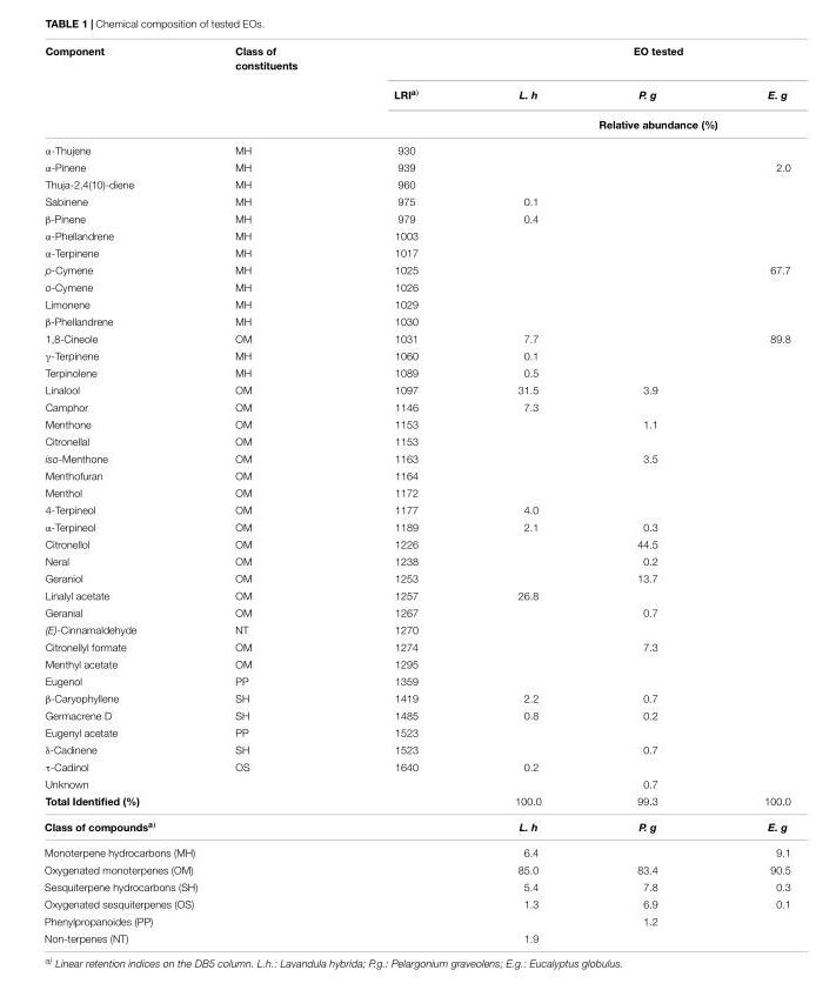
<table><thead><tr><td rowspan="3">Component</td><td rowspan="3">Class of constituents</td><td rowspan="3">LRI<sup>a)</sup></td><td colspan="3">EO tested</td></tr><tr><td>L. h</td><td>P. g</td><td>E. g</td></tr><tr><td colspan="3">Relative abundance (%)</td></tr></thead><tbody><tr><td>α-Thujene</td><td>MH</td><td>930</td><td></td><td></td><td></td></tr><tr><td>α-Pinene</td><td>MH</td><td>939</td><td></td><td></td><td>2.0</td></tr><tr><td>Thuja-2,4(10)-diene</td><td>MH</td><td>960</td><td></td><td></td><td></td></tr><tr><td>Sabinene</td><td>MH</td><td>975</td><td>0.1</td><td></td><td></td></tr><tr><td>β-Pinene</td><td>MH</td><td>979</td><td>0.4</td><td></td><td></td></tr><tr><td>α-Phellandrene</td><td>MH</td><td>1003</td><td></td><td></td><td></td></tr><tr><td>α-Terpinene</td><td>MH</td><td>1017</td><td></td><td></td><td></td></tr><tr><td>p-Cymene</td><td>MH</td><td>1025</td><td></td><td></td><td>67.7</td></tr><tr><td>o-Cymene</td><td>MH</td><td>1026</td><td></td><td></td><td></td></tr><tr><td>Limonene</td><td>MH</td><td>1029</td><td></td><td></td><td></td></tr><tr><td>β-Phellandrene</td><td>MH</td><td>1030</td><td></td><td></td><td></td></tr><tr><td>1,8-Cineole</td><td>OM</td><td>1031</td><td>7.7</td><td></td><td>89.8</td></tr><tr><td>γ-Terpinene</td><td>MH</td><td>1060</td><td>0.1</td><td></td><td></td></tr><tr><td>Terpinolene</td><td>MH</td><td>1089</td><td>0.5</td><td></td><td></td></tr><tr><td>Linalool</td><td>OM</td><td>1097</td><td>31.5</td><td>3.9</td><td></td></tr><tr><td>Camphor</td><td>OM</td><td>1146</td><td>7.3</td><td></td><td></td></tr><tr><td>Menthone</td><td>OM</td><td>1153</td><td></td><td>1.1</td><td></td></tr><tr><td>Citronellal</td><td>OM</td><td>1153</td><td></td><td></td><td></td></tr><tr><td>iso-Menthone</td><td>OM</td><td>1163</td><td></td><td>3.5</td><td></td></tr><tr><td>Menthofuran</td><td>OM</td><td>1164</td><td></td><td></td><td></td></tr><tr><td>Menthol</td><td>OM</td><td>1172</td><td></td><td></td><td></td></tr><tr><td>4-Terpineol</td><td>OM</td><td>1177</td><td>4.0</td><td></td><td></td></tr><tr><td>α-Terpineol</td><td>OM</td><td>1189</td><td>2.1</td><td>0.3</td><td></td></tr><tr><td>Citronellol</td><td>OM</td><td>1226</td><td></td><td>44.5</td><td></td></tr><tr><td>Neral</td><td>OM</td><td>1238</td><td></td><td>0.2</td><td></td></tr><tr><td>Geraniol</td><td>OM</td><td>1253</td><td></td><td>13.7</td><td></td></tr><tr><td>Linalyl acetate</td><td>OM</td><td>1257</td><td>26.8</td><td></td><td></td></tr><tr><td>Geranial</td><td>OM</td><td>1267</td><td></td><td>0.7</td><td></td></tr><tr><td>(E)-Cinnamaldehyde</td><td>NT</td><td>1270</td><td></td><td></td><td></td></tr><tr><td>Citronellyl formate</td><td>OM</td><td>1274</td><td></td><td>7.3</td><td></td></tr><tr><td>Menthyl acetate</td><td>OM</td><td>1295</td><td></td><td></td><td></td></tr><tr><td>Eugenol</td><td>PP</td><td>1359</td><td></td><td></td><td></td></tr><tr><td>β-Caryophyllene</td><td>SH</td><td>1419</td><td>2.2</td><td>0.7</td><td></td></tr><tr><td>Germacrene D</td><td>SH</td><td>1485</td><td>0.8</td><td>0.2</td><td></td></tr><tr><td>Eugenyl acetate</td><td>PP</td><td>1523</td><td></td><td></td><td></td></tr><tr><td>δ-Cadinene</td><td>SH</td><td>1523</td><td></td><td>0.7</td><td></td></tr><tr><td>τ-Cadinol</td><td>OS</td><td>1640</td><td>0.2</td><td></td><td></td></tr><tr><td>Unknown</td><td></td><td></td><td></td><td>0.7</td><td></td></tr><tr><td>Total Identified (%)</td><td></td><td></td><td>100.0</td><td>99.3</td><td>100.0</td></tr><tr><td colspan="3">Class of compounds<sup>a)</sup></td><td>L. h</td><td>P. g</td><td>E. g</td></tr><tr><td colspan="3">Monoterpene hydrocarbons (MH)</td><td>6.4</td><td></td><td>9.1</td></tr><tr><td colspan="3">Oxygenated monoterpenes (OM)</td><td>85.0</td><td>83.4</td><td>90.5</td></tr><tr><td colspan="3">Sesquiterpene hydrocarbons (SH)</td><td>5.4</td><td>7.8</td><td>0.3</td></tr><tr><td colspan="3">Oxygenated sesquiterpenes (OS)</td><td>1.3</td><td>6.9</td><td>0.1</td></tr><tr><td colspan="3">Phenylpropanoides (PP)</td><td></td><td>1.2</td><td></td></tr><tr><td colspan="3">Non-terpenes (NT)</td><td>1.9</td><td></td><td></td></tr></tbody></table>